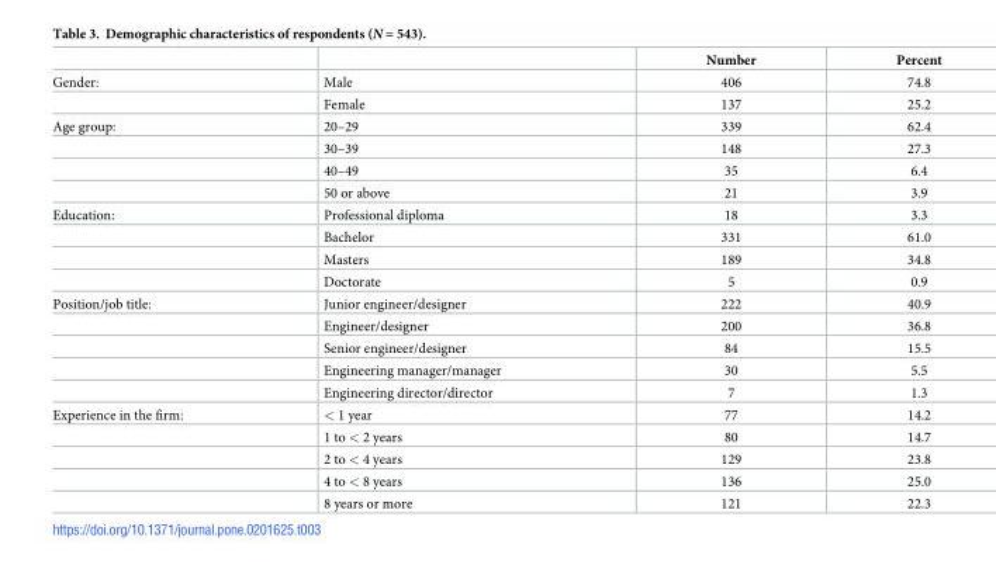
<table><thead><tr><td></td><td></td><td>Number</td><td>Percent</td></tr></thead><tbody><tr><td rowspan="2">Gender:</td><td>Male</td><td>406</td><td>74.8</td></tr><tr><td>Female</td><td>137</td><td>25.2</td></tr><tr><td rowspan="4">Age group:</td><td>20–29</td><td>339</td><td>62.4</td></tr><tr><td>30–39</td><td>148</td><td>27.3</td></tr><tr><td>40–49</td><td>35</td><td>6.4</td></tr><tr><td>50 or above</td><td>21</td><td>3.9</td></tr><tr><td rowspan="4">Education:</td><td>Professional diploma</td><td>18</td><td>3.3</td></tr><tr><td>Bachelor</td><td>331</td><td>61.0</td></tr><tr><td>Masters</td><td>189</td><td>34.8</td></tr><tr><td>Doctorate</td><td>5</td><td>0.9</td></tr><tr><td rowspan="5">Position/job title:</td><td>Junior engineer/designer</td><td>222</td><td>40.9</td></tr><tr><td>Engineer/designer</td><td>200</td><td>36.8</td></tr><tr><td>Senior engineer/designer</td><td>84</td><td>15.5</td></tr><tr><td>Engineering manager/manager</td><td>30</td><td>5.5</td></tr><tr><td>Engineering director/director</td><td>7</td><td>1.3</td></tr><tr><td rowspan="5">Experience in the firm:</td><td>&lt; 1 year</td><td>77</td><td>14.2</td></tr><tr><td>1 to &lt; 2 years</td><td>80</td><td>14.7</td></tr><tr><td>2 to &lt; 4 years</td><td>129</td><td>23.8</td></tr><tr><td>4 to &lt; 8 years</td><td>136</td><td>25.0</td></tr><tr><td>8 years or more</td><td>121</td><td>22.3</td></tr></tbody></table>